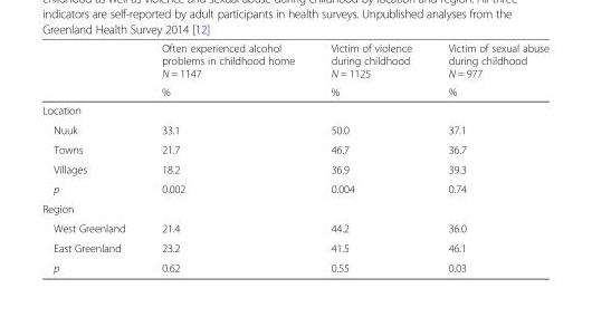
<table><thead><tr><td rowspan="2"></td><td rowspan="2">Often experienced alcohol problems in childhood home N = 1147 %</td><td rowspan="2">Victim of violence during childhood N = 1125 %</td><td rowspan="2">Victim of sexual abuse during childhood N = 977 %</td></tr><tr></tr></thead><tbody><tr><td colspan="4">Location</td></tr><tr><td>Nuuk</td><td>33.1</td><td>50.0</td><td>37.1</td></tr><tr><td>Towns</td><td>21.7</td><td>46.7</td><td>36.7</td></tr><tr><td>Villages</td><td>18.2</td><td>36.9</td><td>39.3</td></tr><tr><td>p</td><td>0.002</td><td>0.004</td><td>0.74</td></tr><tr><td colspan="4">Region</td></tr><tr><td>West Greenland</td><td>21.4</td><td>44.2</td><td>36.0</td></tr><tr><td>East Greenland</td><td>23.2</td><td>41.5</td><td>46.1</td></tr><tr><td>p</td><td>0.62</td><td>0.55</td><td>0.03</td></tr></tbody></table>